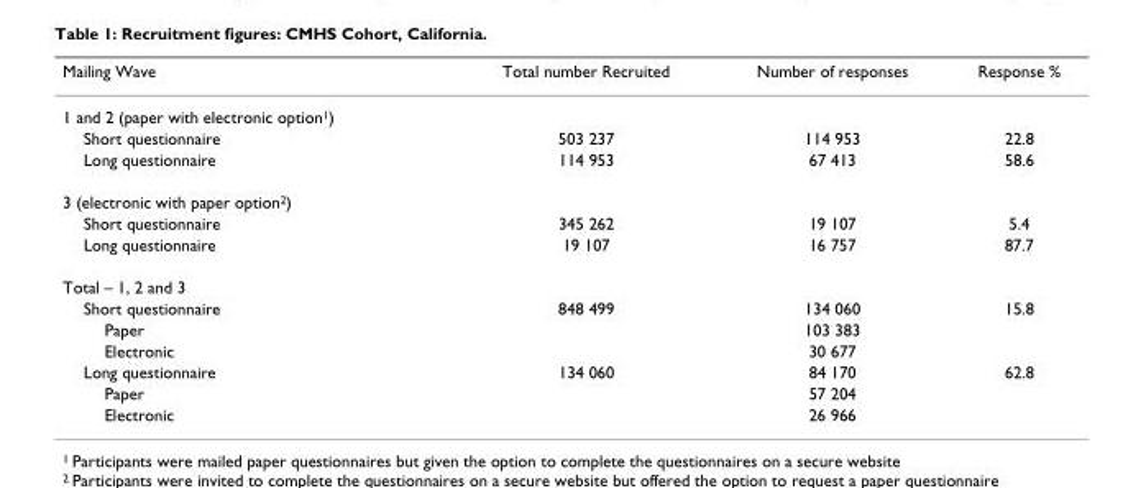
<table><thead><tr><td>Mailing Wave</td><td>Total number Recruited</td><td>Number of responses</td><td>Response %</td></tr></thead><tbody><tr><td colspan="4">1 and 2 (paper with electronic option1)</td></tr><tr><td>Short questionnaire</td><td>503 237</td><td>114 953</td><td>22.8</td></tr><tr><td>Long questionnaire</td><td>114 953</td><td>67 413</td><td>58.6</td></tr><tr><td colspan="4">3 (electronic with paper option2)</td></tr><tr><td>Short questionnaire</td><td>345 262</td><td>19 107</td><td>5.4</td></tr><tr><td>Long questionnaire</td><td>19 107</td><td>16 757</td><td>87.7</td></tr><tr><td colspan="4">Total – 1, 2 and 3</td></tr><tr><td>Short questionnaire</td><td>848 499</td><td>134 060</td><td>15.8</td></tr><tr><td>Paper</td><td></td><td>103 383</td><td></td></tr><tr><td>Electronic</td><td></td><td>30 677</td><td></td></tr><tr><td>Long questionnaire</td><td>134 060</td><td>84 170</td><td>62.8</td></tr><tr><td>Paper</td><td></td><td>57 204</td><td></td></tr><tr><td>Electronic</td><td></td><td>26 966</td><td></td></tr></tbody></table>